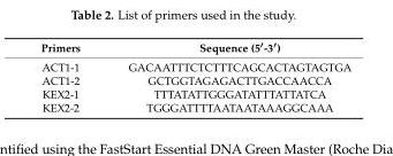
<table><thead><tr><td>Primers</td><td>Sequence (5′-3′)</td></tr></thead><tbody><tr><td>ACT1-1</td><td>GACAATTTCTCTTTCAGCACTAGTAGTGA</td></tr><tr><td>ACT1-2</td><td>GCTGGTAGAGACTTGACCAACCA</td></tr><tr><td>KEX2-1</td><td>TTTATATTGGGATATTTATTATCA</td></tr><tr><td>KEX2-2</td><td>TGGGATTTTAATAATAAAGGCAAA</td></tr></tbody></table>